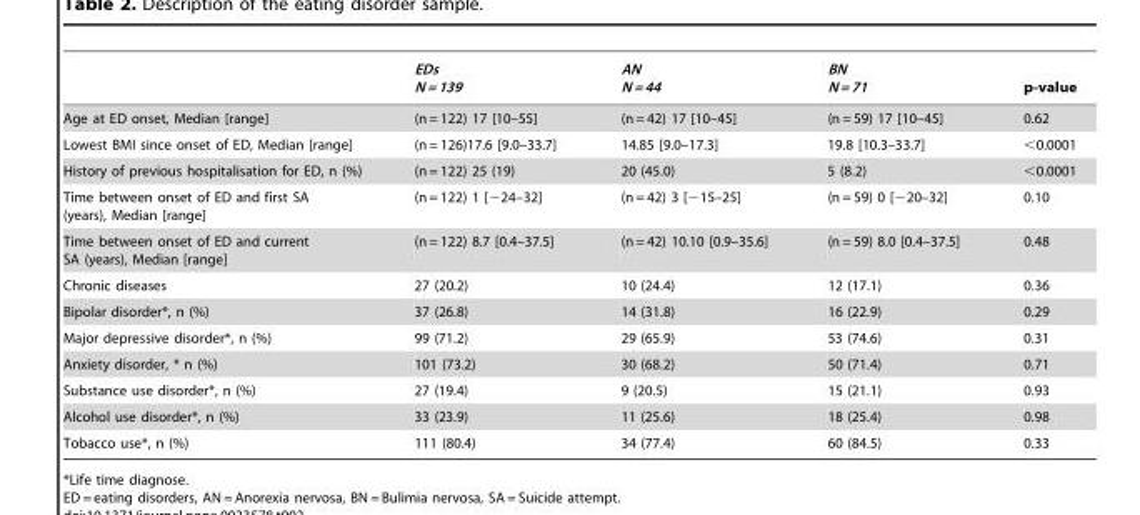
<table><thead><tr><td></td><td>EDs N = 139</td><td>AN N = 44</td><td>BN N = 71</td><td>p-value</td></tr></thead><tbody><tr><td>Age at ED onset, Median [range]</td><td>(n = 122) 17 [10–55]</td><td>(n = 42) 17 [10–45]</td><td>(n = 59) 17 [10–45]</td><td>0.62</td></tr><tr><td>Lowest BMI since onset of ED, Median [range]</td><td>(n = 126)17.6 [9.0–33.7]</td><td>14.85 [9.0–17.3]</td><td>19.8 [10.3–33.7]</td><td>&lt;0.0001</td></tr><tr><td>History of previous hospitalisation for ED, n (%)</td><td>(n = 122) 25 (19)</td><td>20 (45.0)</td><td>5 (8.2)</td><td>&lt;0.0001</td></tr><tr><td>Time between onset of ED and first SA (years), Median [range]</td><td>(n = 122) 1 [−24–32]</td><td>(n = 42) 3 [−15–25]</td><td>(n = 59) 0 [−20–32]</td><td>0.10</td></tr><tr><td>Time between onset of ED and current SA (years), Median [range]</td><td>(n = 122) 8.7 [0.4–37.5]</td><td>(n = 42) 10.10 [0.9–35.6]</td><td>(n = 59) 8.0 [0.4–37.5]</td><td>0.48</td></tr><tr><td>Chronic diseases</td><td>27 (20.2)</td><td>10 (24.4)</td><td>12 (17.1)</td><td>0.36</td></tr><tr><td>Bipolar disorder*, n (%)</td><td>37 (26.8)</td><td>14 (31.8)</td><td>16 (22.9)</td><td>0.29</td></tr><tr><td>Major depressive disorder*, n (%)</td><td>99 (71.2)</td><td>29 (65.9)</td><td>53 (74.6)</td><td>0.31</td></tr><tr><td>Anxiety disorder, * n (%)</td><td>101 (73.2)</td><td>30 (68.2)</td><td>50 (71.4)</td><td>0.71</td></tr><tr><td>Substance use disorder*, n (%)</td><td>27 (19.4)</td><td>9 (20.5)</td><td>15 (21.1)</td><td>0.93</td></tr><tr><td>Alcohol use disorder*, n (%)</td><td>33 (23.9)</td><td>11 (25.6)</td><td>18 (25.4)</td><td>0.98</td></tr><tr><td>Tobacco use*, n (%)</td><td>111 (80.4)</td><td>34 (77.4)</td><td>60 (84.5)</td><td>0.33</td></tr></tbody></table>